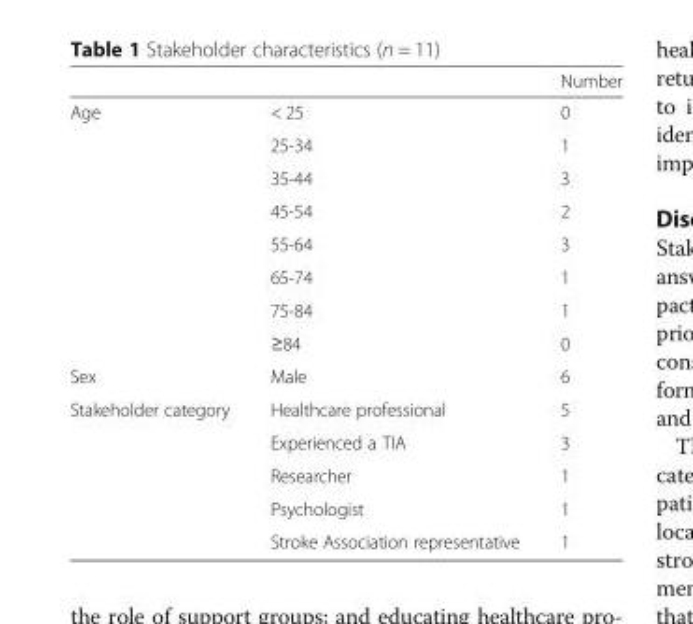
<table><thead><tr><td></td><td></td><td>Number</td></tr></thead><tbody><tr><td rowspan="8">Age</td><td>&lt; 25</td><td>0</td></tr><tr><td>25-34</td><td>1</td></tr><tr><td>35-44</td><td>3</td></tr><tr><td>45-54</td><td>2</td></tr><tr><td>55-64</td><td>3</td></tr><tr><td>65-74</td><td>1</td></tr><tr><td>75-84</td><td>1</td></tr><tr><td>≥84</td><td>0</td></tr><tr><td>Sex</td><td>Male</td><td>6</td></tr><tr><td rowspan="5">Stakeholder category</td><td>Healthcare professional</td><td>5</td></tr><tr><td>Experienced a TIA</td><td>3</td></tr><tr><td>Researcher</td><td>1</td></tr><tr><td>Psychologist</td><td>1</td></tr><tr><td>Stroke Association representative</td><td>1</td></tr></tbody></table>